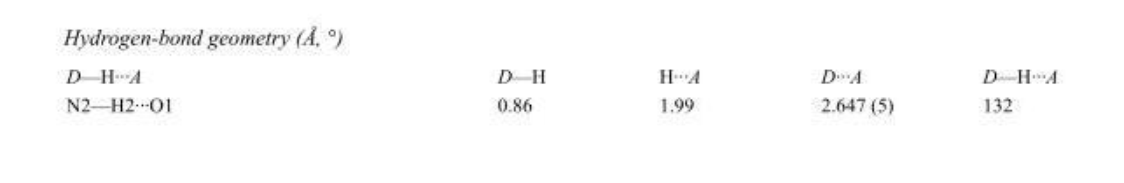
<table><tbody><tr><td>D—H···A</td><td>D—H</td><td>H···A</td><td>D···A</td><td>D—H···A</td></tr><tr><td>N2—H2···O1</td><td>0.86</td><td>1.99</td><td>2.647 (5)</td><td>132</td></tr></tbody></table>